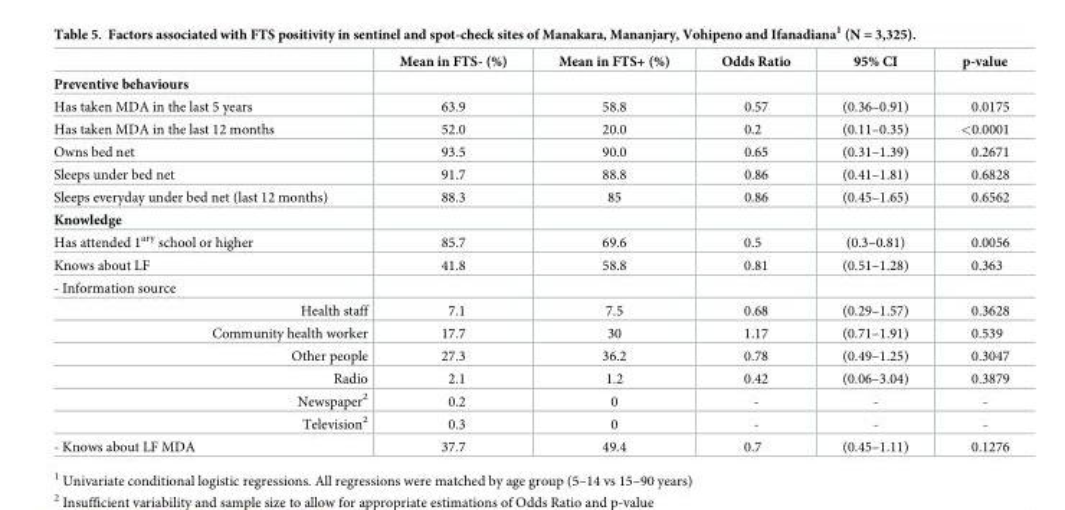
<table><thead><tr><td></td><td>Mean in FTS- (%)</td><td>Mean in FTS+ (%)</td><td>Odds Ratio</td><td>95% CI</td><td>p-value</td></tr></thead><tbody><tr><td colspan="6">Preventive behaviours</td></tr><tr><td>Has taken MDA in the last 5 years</td><td>63.9</td><td>58.8</td><td>0.57</td><td>(0.36–0.91)</td><td>0.0175</td></tr><tr><td>Has taken MDA in the last 12 months</td><td>52.0</td><td>20.0</td><td>0.2</td><td>(0.11–0.35)</td><td>&lt;0.0001</td></tr><tr><td>Owns bed net</td><td>93.5</td><td>90.0</td><td>0.65</td><td>(0.31–1.39)</td><td>0.2671</td></tr><tr><td>Sleeps under bed net</td><td>91.7</td><td>88.8</td><td>0.86</td><td>(0.41–1.81)</td><td>0.6828</td></tr><tr><td>Sleeps everyday under bed net (last 12 months)</td><td>88.3</td><td>85</td><td>0.86</td><td>(0.45–1.65)</td><td>0.6562</td></tr><tr><td colspan="6">Knowledge</td></tr><tr><td>Has attended 1<sup>ary</sup> school or higher</td><td>85.7</td><td>69.6</td><td>0.5</td><td>(0.3–0.81)</td><td>0.0056</td></tr><tr><td>Knows about LF</td><td>41.8</td><td>58.8</td><td>0.81</td><td>(0.51–1.28)</td><td>0.363</td></tr><tr><td colspan="6">- Information source</td></tr><tr><td>Health staff</td><td>7.1</td><td>7.5</td><td>0.68</td><td>(0.29–1.57)</td><td>0.3628</td></tr><tr><td>Community health worker</td><td>17.7</td><td>30</td><td>1.17</td><td>(0.71–1.91)</td><td>0.539</td></tr><tr><td>Other people</td><td>27.3</td><td>36.2</td><td>0.78</td><td>(0.49–1.25)</td><td>0.3047</td></tr><tr><td>Radio</td><td>2.1</td><td>1.2</td><td>0.42</td><td>(0.06–3.04)</td><td>0.3879</td></tr><tr><td>Newspaper<sup>2</sup></td><td>0.2</td><td>0</td><td>-</td><td>-</td><td>-</td></tr><tr><td>Television<sup>2</sup></td><td>0.3</td><td>0</td><td>-</td><td>-</td><td>-</td></tr><tr><td>- Knows about LF MDA</td><td>37.7</td><td>49.4</td><td>0.7</td><td>(0.45–1.11)</td><td>0.1276</td></tr></tbody></table>